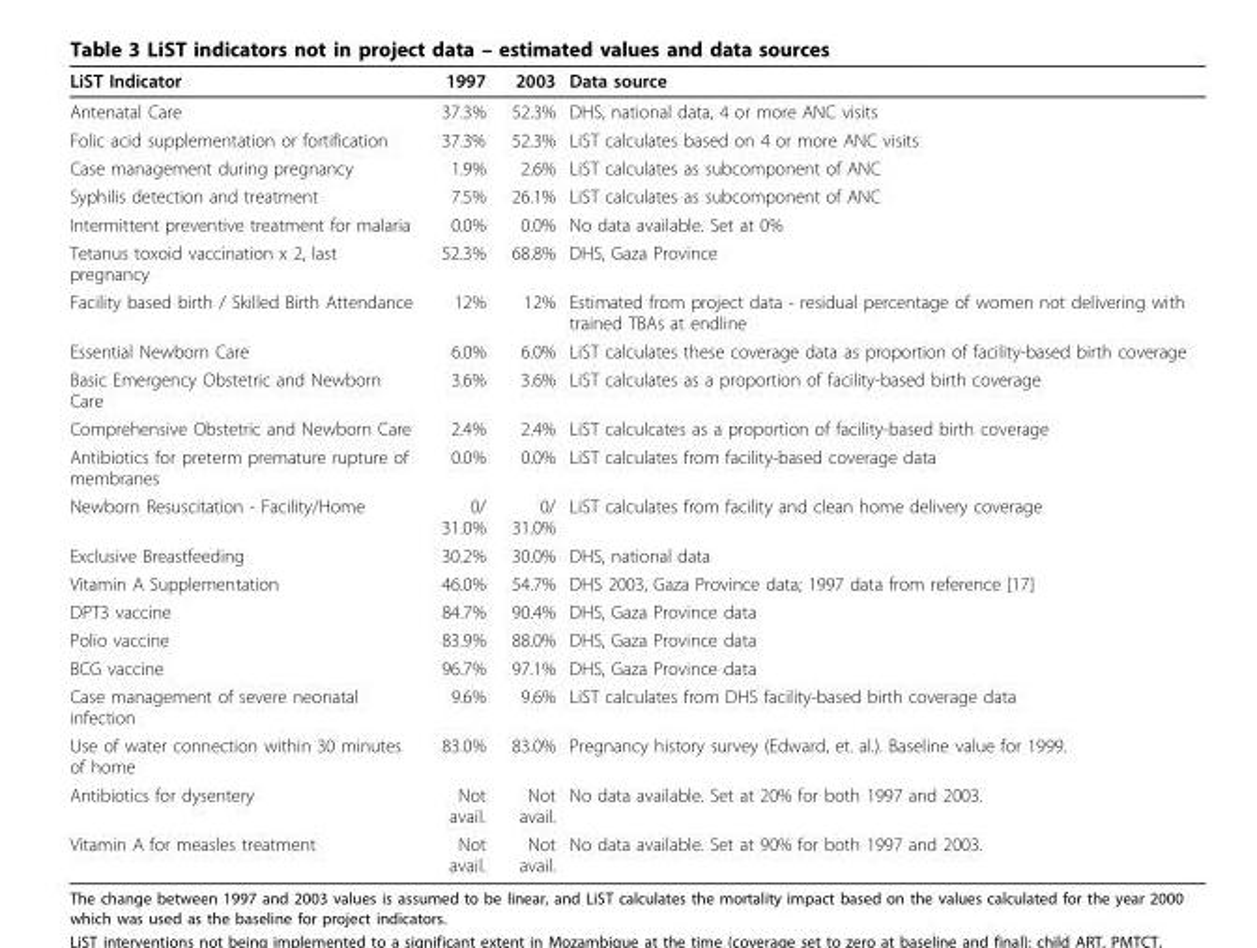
<table><thead><tr><td>LiST Indicator</td><td>1997</td><td>2003</td><td>Data source</td></tr></thead><tbody><tr><td>Antenatal Care</td><td>37.3%</td><td>52.3%</td><td>DHS, national data, 4 or more ANC visits</td></tr><tr><td>Folic acid supplementation or fortification</td><td>37.3%</td><td>52.3%</td><td>LiST calculates based on 4 or more ANC visits</td></tr><tr><td>Case management during pregnancy</td><td>1.9%</td><td>2.6%</td><td>LiST calculates as subcomponent of ANC</td></tr><tr><td>Syphilis detection and treatment</td><td>7.5%</td><td>26.1%</td><td>LiST calculates as subcomponent of ANC</td></tr><tr><td>Intermittent preventive treatment for malaria</td><td>0.0%</td><td>0.0%</td><td>No data available. Set at 0%</td></tr><tr><td>Tetanus toxoid vaccination x 2, last pregnancy</td><td>52.3%</td><td>68.8%</td><td>DHS, Gaza Province</td></tr><tr><td>Facility based birth / Skilled Birth Attendance</td><td>12%</td><td>12%</td><td>Estimated from project data - residual percentage of women not delivering with trained TBAs at endline</td></tr><tr><td>Essential Newborn Care</td><td>6.0%</td><td>6.0%</td><td>LiST calculates these coverage data as proportion of facility-based birth coverage</td></tr><tr><td>Basic Emergency Obstetric and Newborn Care</td><td>3.6%</td><td>3.6%</td><td>LiST calculates as a proportion of facility-based birth coverage</td></tr><tr><td>Comprehensive Obstetric and Newborn Care</td><td>2.4%</td><td>2.4%</td><td>LiST calculcates as a proportion of facility-based birth coverage</td></tr><tr><td>Antibiotics for preterm premature rupture of membranes</td><td>0.0%</td><td>0.0%</td><td>LiST calculates from facility-based coverage data</td></tr><tr><td>Newborn Resuscitation - Facility/Home</td><td>0/ 31.0%</td><td>0/ 31.0%</td><td>LiST calculates from facility and clean home delivery coverage</td></tr><tr><td>Exclusive Breastfeeding</td><td>30.2%</td><td>30.0%</td><td>DHS, national data</td></tr><tr><td>Vitamin A Supplementation</td><td>46.0%</td><td>54.7%</td><td>DHS 2003, Gaza Province data; 1997 data from reference [17]</td></tr><tr><td>DPT3 vaccine</td><td>84.7%</td><td>90.4%</td><td>DHS, Gaza Province data</td></tr><tr><td>Polio vaccine</td><td>83.9%</td><td>88.0%</td><td>DHS, Gaza Province data</td></tr><tr><td>BCG vaccine</td><td>96.7%</td><td>97.1%</td><td>DHS, Gaza Province data</td></tr><tr><td>Case management of severe neonatal infection</td><td>9.6%</td><td>9.6%</td><td>LiST calculates from DHS facility-based birth coverage data</td></tr><tr><td>Use of water connection within 30 minutes of home</td><td>83.0%</td><td>83.0%</td><td>Pregnancy history survey (Edward, et. al.). Baseline value for 1999.</td></tr><tr><td>Antibiotics for dysentery</td><td>Not avail.</td><td>Not avail.</td><td>No data available. Set at 20% for both 1997 and 2003.</td></tr><tr><td>Vitamin A for measles treatment</td><td>Not avail.</td><td>Not avail.</td><td>No data available. Set at 90% for both 1997 and 2003.</td></tr></tbody></table>